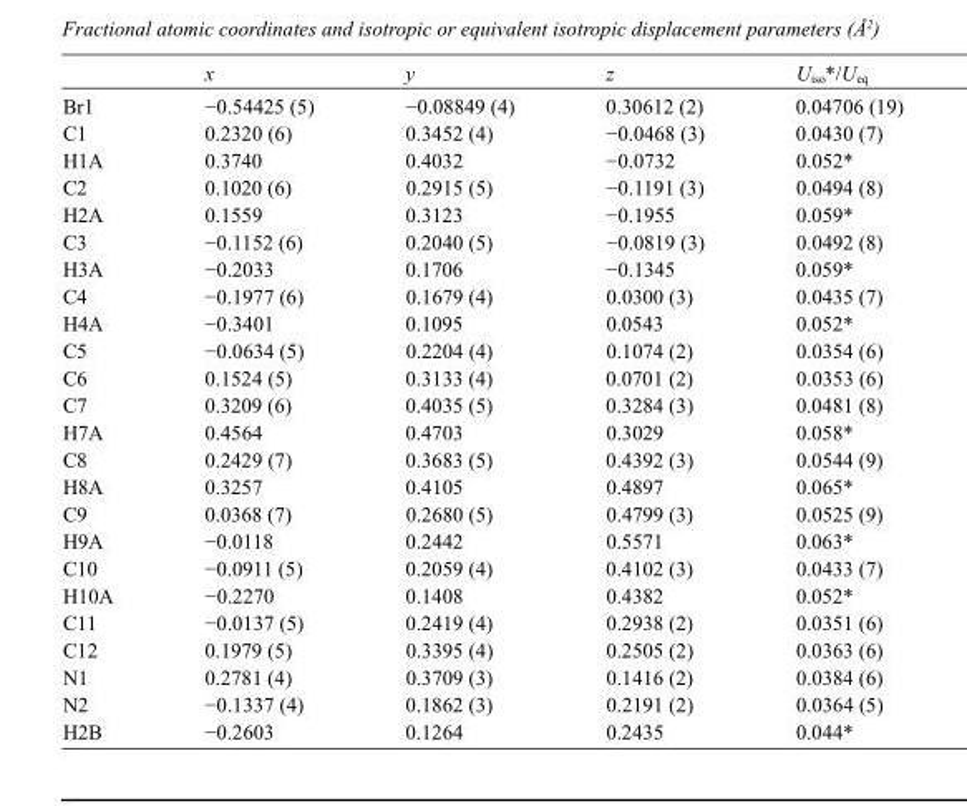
<table><thead><tr><td></td><td>x</td><td>y</td><td>z</td><td>U<sub>iso</sub>*/U<sub>eq</sub></td></tr></thead><tbody><tr><td>Br1</td><td>−0.54425 (5)</td><td>−0.08849 (4)</td><td>0.30612 (2)</td><td>0.04706 (19)</td></tr><tr><td>C1</td><td>0.2320 (6)</td><td>0.3452 (4)</td><td>−0.0468 (3)</td><td>0.0430 (7)</td></tr><tr><td>H1A</td><td>0.3740</td><td>0.4032</td><td>−0.0732</td><td>0.052*</td></tr><tr><td>C2</td><td>0.1020 (6)</td><td>0.2915 (5)</td><td>−0.1191 (3)</td><td>0.0494 (8)</td></tr><tr><td>H2A</td><td>0.1559</td><td>0.3123</td><td>−0.1955</td><td>0.059*</td></tr><tr><td>C3</td><td>−0.1152 (6)</td><td>0.2040 (5)</td><td>−0.0819 (3)</td><td>0.0492 (8)</td></tr><tr><td>H3A</td><td>−0.2033</td><td>0.1706</td><td>−0.1345</td><td>0.059*</td></tr><tr><td>C4</td><td>−0.1977 (6)</td><td>0.1679 (4)</td><td>0.0300 (3)</td><td>0.0435 (7)</td></tr><tr><td>H4A</td><td>−0.3401</td><td>0.1095</td><td>0.0543</td><td>0.052*</td></tr><tr><td>C5</td><td>−0.0634 (5)</td><td>0.2204 (4)</td><td>0.1074 (2)</td><td>0.0354 (6)</td></tr><tr><td>C6</td><td>0.1524 (5)</td><td>0.3133 (4)</td><td>0.0701 (2)</td><td>0.0353 (6)</td></tr><tr><td>C7</td><td>0.3209 (6)</td><td>0.4035 (5)</td><td>0.3284 (3)</td><td>0.0481 (8)</td></tr><tr><td>H7A</td><td>0.4564</td><td>0.4703</td><td>0.3029</td><td>0.058*</td></tr><tr><td>C8</td><td>0.2429 (7)</td><td>0.3683 (5)</td><td>0.4392 (3)</td><td>0.0544 (9)</td></tr><tr><td>H8A</td><td>0.3257</td><td>0.4105</td><td>0.4897</td><td>0.065*</td></tr><tr><td>C9</td><td>0.0368 (7)</td><td>0.2680 (5)</td><td>0.4799 (3)</td><td>0.0525 (9)</td></tr><tr><td>H9A</td><td>−0.0118</td><td>0.2442</td><td>0.5571</td><td>0.063*</td></tr><tr><td>C10</td><td>−0.0911 (5)</td><td>0.2059 (4)</td><td>0.4102 (3)</td><td>0.0433 (7)</td></tr><tr><td>H10A</td><td>−0.2270</td><td>0.1408</td><td>0.4382</td><td>0.052*</td></tr><tr><td>C11</td><td>−0.0137 (5)</td><td>0.2419 (4)</td><td>0.2938 (2)</td><td>0.0351 (6)</td></tr><tr><td>C12</td><td>0.1979 (5)</td><td>0.3395 (4)</td><td>0.2505 (2)</td><td>0.0363 (6)</td></tr><tr><td>N1</td><td>0.2781 (4)</td><td>0.3709 (3)</td><td>0.1416 (2)</td><td>0.0384 (6)</td></tr><tr><td>N2</td><td>−0.1337 (4)</td><td>0.1862 (3)</td><td>0.2191 (2)</td><td>0.0364 (5)</td></tr><tr><td>H2B</td><td>−0.2603</td><td>0.1264</td><td>0.2435</td><td>0.044*</td></tr></tbody></table>